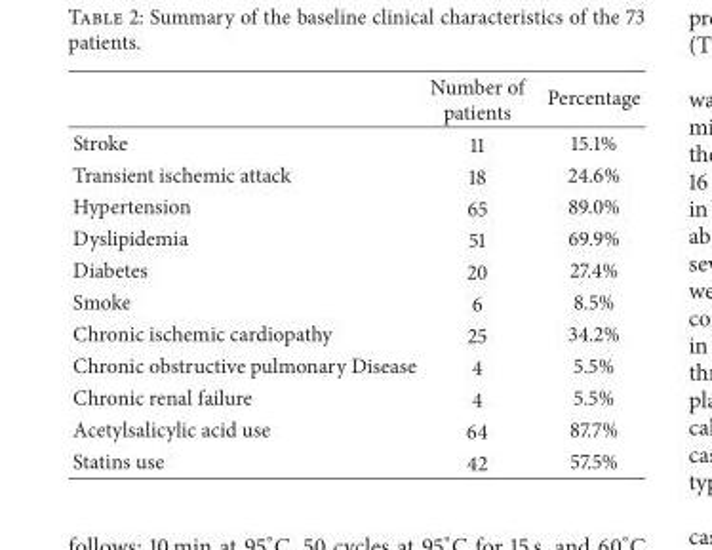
<table><thead><tr><td></td><td>Number of patients</td><td>Percentage</td></tr></thead><tbody><tr><td>Stroke</td><td>11</td><td>15.1%</td></tr><tr><td>Transient ischemic attack</td><td>18</td><td>24.6%</td></tr><tr><td>Hypertension</td><td>65</td><td>89.0%</td></tr><tr><td>Dyslipidemia</td><td>51</td><td>69.9%</td></tr><tr><td>Diabetes</td><td>20</td><td>27.4%</td></tr><tr><td>Smoke</td><td>6</td><td>8.5%</td></tr><tr><td>Chronic ischemic cardiopathy</td><td>25</td><td>34.2%</td></tr><tr><td>Chronic obstructive pulmonary Disease</td><td>4</td><td>5.5%</td></tr><tr><td>Chronic renal failure</td><td>4</td><td>5.5%</td></tr><tr><td>Acetylsalicylic acid use</td><td>64</td><td>87.7%</td></tr><tr><td>Statins use</td><td>42</td><td>57.5%</td></tr></tbody></table>